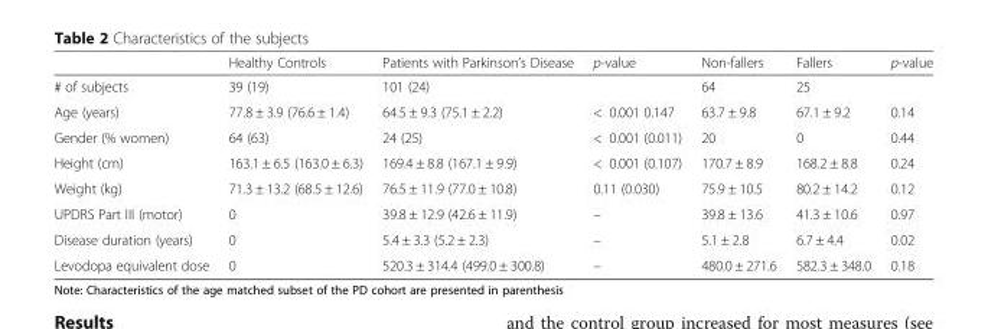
<table><thead><tr><td></td><td>Healthy Controls</td><td>Patients with Parkinson’s Disease</td><td>p-value</td><td>Non-fallers</td><td>Fallers</td><td>p-value</td></tr></thead><tbody><tr><td># of subjects</td><td>39 (19)</td><td>101 (24)</td><td></td><td>64</td><td>25</td><td></td></tr><tr><td>Age (years)</td><td>77.8 ± 3.9 (76.6 ± 1.4)</td><td>64.5 ± 9.3 (75.1 ± 2.2)</td><td>&lt; 0.001 0.147</td><td>63.7 ± 9.8</td><td>67.1 ± 9.2</td><td>0.14</td></tr><tr><td>Gender (% women)</td><td>64 (63)</td><td>24 (25)</td><td>&lt; 0.001 (0.011)</td><td>20</td><td>0</td><td>0.44</td></tr><tr><td>Height (cm)</td><td>163.1 ± 6.5 (163.0 ± 6.3)</td><td>169.4 ± 8.8 (167.1 ± 9.9)</td><td>&lt; 0.001 (0.107)</td><td>170.7 ± 8.9</td><td>168.2 ± 8.8</td><td>0.24</td></tr><tr><td>Weight (kg)</td><td>71.3 ± 13.2 (68.5 ± 12.6)</td><td>76.5 ± 11.9 (77.0 ± 10.8)</td><td>0.11 (0.030)</td><td>75.9 ± 10.5</td><td>80.2 ± 14.2</td><td>0.12</td></tr><tr><td>UPDRS Part III (motor)</td><td>0</td><td>39.8 ± 12.9 (42.6 ± 11.9)</td><td>–</td><td>39.8 ± 13.6</td><td>41.3 ± 10.6</td><td>0.97</td></tr><tr><td>Disease duration (years)</td><td>0</td><td>5.4 ± 3.3 (5.2 ± 2.3)</td><td>–</td><td>5.1 ± 2.8</td><td>6.7 ± 4.4</td><td>0.02</td></tr><tr><td>Levodopa equivalent dose</td><td>0</td><td>520.3 ± 314.4 (499.0 ± 300.8)</td><td>–</td><td>480.0 ± 271.6</td><td>582.3 ± 348.0</td><td>0.18</td></tr></tbody></table>